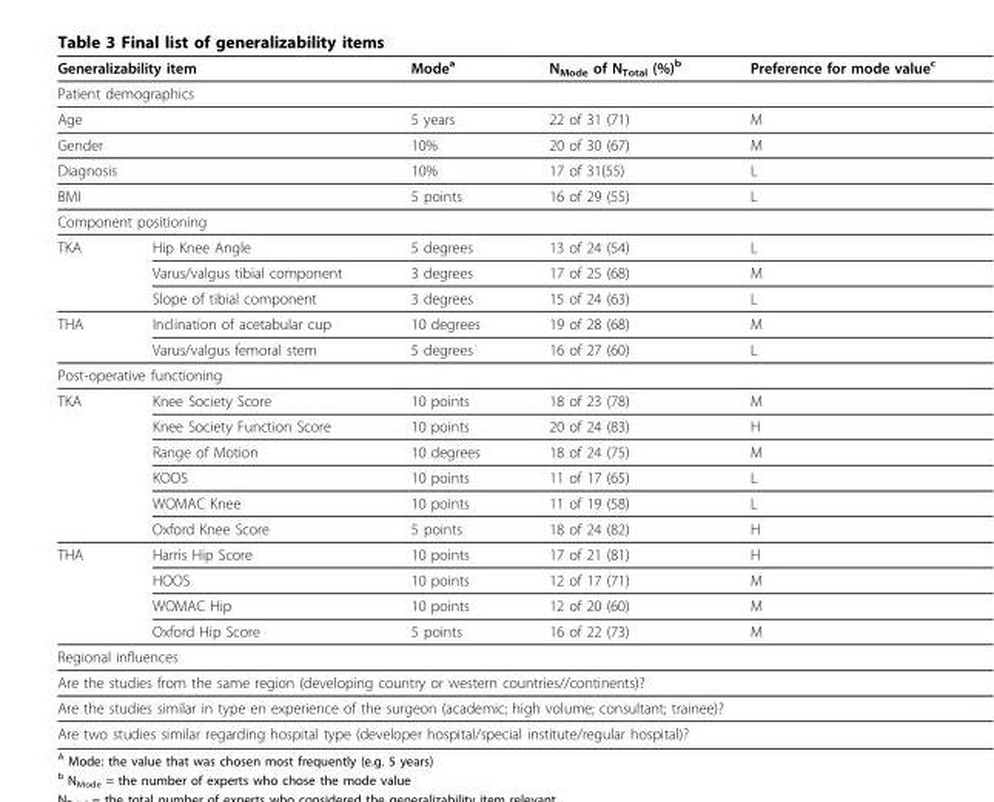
<table><thead><tr><td colspan="2">Generalizability item</td><td>Mode<sup>a</sup></td><td>N<sub>Mode</sub> of N<sub>Total</sub> (%)<sup>b</sup></td><td>Preference for mode value<sup>c</sup></td></tr></thead><tbody><tr><td colspan="5">Patient demographics</td></tr><tr><td colspan="2">Age</td><td>5 years</td><td>22 of 31 (71)</td><td>M</td></tr><tr><td colspan="2">Gender</td><td>10%</td><td>20 of 30 (67)</td><td>M</td></tr><tr><td colspan="2">Diagnosis</td><td>10%</td><td>17 of 31(55)</td><td>L</td></tr><tr><td colspan="2">BMI</td><td>5 points</td><td>16 of 29 (55)</td><td>L</td></tr><tr><td colspan="5">Component positioning</td></tr><tr><td rowspan="3">TKA</td><td>Hip Knee Angle</td><td>5 degrees</td><td>13 of 24 (54)</td><td>L</td></tr><tr><td>Varus/valgus tibial component</td><td>3 degrees</td><td>17 of 25 (68)</td><td>M</td></tr><tr><td>Slope of tibial component</td><td>3 degrees</td><td>15 of 24 (63)</td><td>L</td></tr><tr><td rowspan="2">THA</td><td>Inclination of acetabular cup</td><td>10 degrees</td><td>19 of 28 (68)</td><td>M</td></tr><tr><td>Varus/valgus femoral stem</td><td>5 degrees</td><td>16 of 27 (60)</td><td>L</td></tr><tr><td colspan="5">Post-operative functioning</td></tr><tr><td rowspan="6">TKA</td><td>Knee Society Score</td><td>10 points</td><td>18 of 23 (78)</td><td>M</td></tr><tr><td>Knee Society Function Score</td><td>10 points</td><td>20 of 24 (83)</td><td>H</td></tr><tr><td>Range of Motion</td><td>10 degrees</td><td>18 of 24 (75)</td><td>M</td></tr><tr><td>KOOS</td><td>10 points</td><td>11 of 17 (65)</td><td>L</td></tr><tr><td>WOMAC Knee</td><td>10 points</td><td>11 of 19 (58)</td><td>L</td></tr><tr><td>Oxford Knee Score</td><td>5 points</td><td>18 of 24 (82)</td><td>H</td></tr><tr><td rowspan="4">THA</td><td>Harris Hip Score</td><td>10 points</td><td>17 of 21 (81)</td><td>H</td></tr><tr><td>HOOS</td><td>10 points</td><td>12 of 17 (71)</td><td>M</td></tr><tr><td>WOMAC Hip</td><td>10 points</td><td>12 of 20 (60)</td><td>M</td></tr><tr><td>Oxford Hip Score</td><td>5 points</td><td>16 of 22 (73)</td><td>M</td></tr><tr><td colspan="5">Regional influences</td></tr><tr><td colspan="5">Are the studies from the same region (developing country or western countries//continents)?</td></tr><tr><td colspan="5">Are the studies similar in type en experience of the surgeon (academic; high volume; consultant; trainee)?</td></tr><tr><td colspan="5">Are two studies similar regarding hospital type (developer hospital/special institute/regular hospital)?</td></tr></tbody></table>